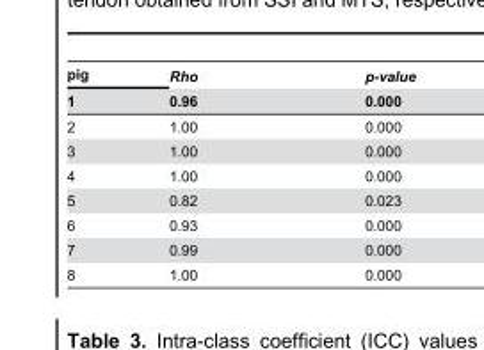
<table><thead><tr><td rowspan="2">pig 1</td><td rowspan="2">Rho 0.96</td><td rowspan="2">p-value 0.000</td></tr><tr></tr></thead><tbody><tr><td>2</td><td>1.00</td><td>0.000</td></tr><tr><td>3</td><td>1.00</td><td>0.000</td></tr><tr><td>4</td><td>1.00</td><td>0.000</td></tr><tr><td>5</td><td>0.82</td><td>0.023</td></tr><tr><td>6</td><td>0.93</td><td>0.000</td></tr><tr><td>7</td><td>0.99</td><td>0.000</td></tr><tr><td>8</td><td>1.00</td><td>0.000</td></tr></tbody></table>